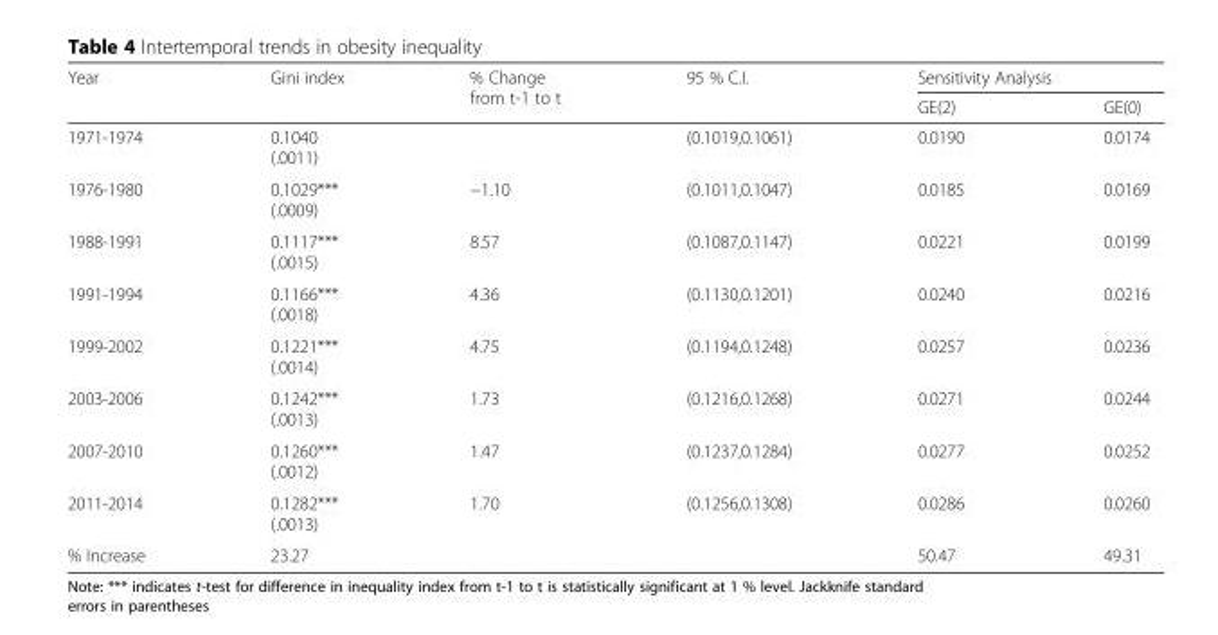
<table><thead><tr><td rowspan="2">Year</td><td rowspan="2">Gini index</td><td rowspan="2">% Change from t-1 to t</td><td rowspan="2">95 % C.I.</td><td colspan="2">Sensitivity Analysis</td></tr><tr><td>GE(2)</td><td>GE(0)</td></tr></thead><tbody><tr><td>1971-1974</td><td>0.1040 (.0011)</td><td></td><td>(0.1019,0.1061)</td><td>0.0190</td><td>0.0174</td></tr><tr><td>1976-1980</td><td>0.1029*** (.0009)</td><td>−1.10</td><td>(0.1011,0.1047)</td><td>0.0185</td><td>0.0169</td></tr><tr><td>1988-1991</td><td>0.1117*** (.0015)</td><td>8.57</td><td>(0.1087,0.1147)</td><td>0.0221</td><td>0.0199</td></tr><tr><td>1991-1994</td><td>0.1166*** (.0018)</td><td>4.36</td><td>(0.1130,0.1201)</td><td>0.0240</td><td>0.0216</td></tr><tr><td>1999-2002</td><td>0.1221*** (.0014)</td><td>4.75</td><td>(0.1194,0.1248)</td><td>0.0257</td><td>0.0236</td></tr><tr><td>2003-2006</td><td>0.1242*** (.0013)</td><td>1.73</td><td>(0.1216,0.1268)</td><td>0.0271</td><td>0.0244</td></tr><tr><td>2007-2010</td><td>0.1260*** (.0012)</td><td>1.47</td><td>(0.1237,0.1284)</td><td>0.0277</td><td>0.0252</td></tr><tr><td>2011-2014</td><td>0.1282*** (.0013)</td><td>1.70</td><td>(0.1256,0.1308)</td><td>0.0286</td><td>0.0260</td></tr><tr><td>% Increase</td><td>23.27</td><td></td><td></td><td>50.47</td><td>49.31</td></tr></tbody></table>